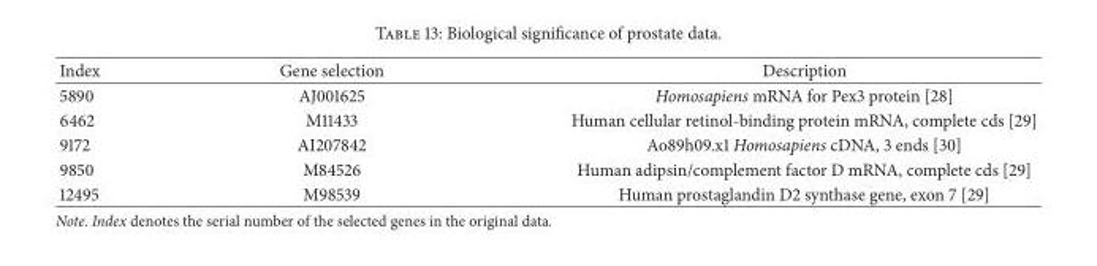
<table><thead><tr><td>Index</td><td>Gene selection</td><td>Description</td></tr></thead><tbody><tr><td>5890</td><td>AJ001625</td><td>Homosapiens mRNA for Pex3 protein [28]</td></tr><tr><td>6462</td><td>M11433</td><td>Human cellular retinol-binding protein mRNA, complete cds [29]</td></tr><tr><td>9172</td><td>AI207842</td><td>Ao89h09.x1 Homosapiens cDNA, 3 ends [30]</td></tr><tr><td>9850</td><td>M84526</td><td>Human adipsin/complement factor D mRNA, complete cds [29]</td></tr><tr><td>12495</td><td>M98539</td><td>Human prostaglandin D2 synthase gene, exon 7 [29]</td></tr></tbody></table>